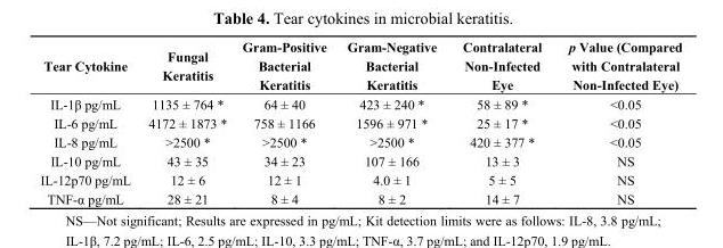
<table><thead><tr><td>Tear Cytokine</td><td>Fungal Keratitis</td><td>Gram-Positive Bacterial Keratitis</td><td>Gram-Negative Bacterial Keratitis</td><td>Contralateral Non-Infected Eye</td><td>p Value (Compared with Contralateral Non-Infected Eye)</td></tr></thead><tbody><tr><td>IL-1β pg/mL</td><td>1135 ± 764 *</td><td>64 ± 40</td><td>423 ± 240 *</td><td>58 ± 89 *</td><td>&lt;0.05</td></tr><tr><td>IL-6 pg/mL</td><td>4172 ± 1873 *</td><td>758 ± 1166</td><td>1596 ± 971 *</td><td>25 ± 17 *</td><td>&lt;0.05</td></tr><tr><td>IL-8 pg/mL</td><td>&gt;2500 *</td><td>&gt;2500 *</td><td>&gt;2500 *</td><td>420 ± 377 *</td><td>&lt;0.05</td></tr><tr><td>IL-10 pg/mL</td><td>43 ± 35</td><td>34 ± 23</td><td>107 ± 166</td><td>13 ± 3</td><td>NS</td></tr><tr><td>IL-12p70 pg/mL</td><td>12 ± 6</td><td>12 ± 1</td><td>4.0 ± 1</td><td>5 ± 5</td><td>NS</td></tr><tr><td>TNF-α pg/mL</td><td>28 ± 21</td><td>8 ± 4</td><td>8 ± 2</td><td>14 ± 7</td><td>NS</td></tr></tbody></table>